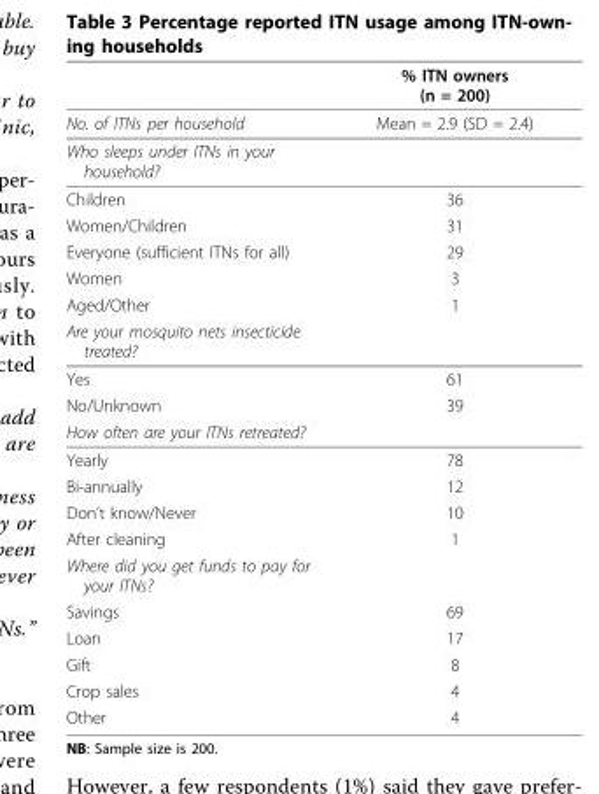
<table><thead><tr><td></td><td>% ITN owners (n = 200)</td></tr></thead><tbody><tr><td>No. of ITNs per household</td><td>Mean = 2.9 (SD = 2.4)</td></tr><tr><td colspan="2">Who sleeps under ITNs in your household?</td></tr><tr><td>Children</td><td>36</td></tr><tr><td>Women/Children</td><td>31</td></tr><tr><td>Everyone (sufficient ITNs for all)</td><td>29</td></tr><tr><td>Women</td><td>3</td></tr><tr><td>Aged/Other</td><td>1</td></tr><tr><td colspan="2">Are your mosquito nets insecticide treated?</td></tr><tr><td>Yes</td><td>61</td></tr><tr><td>No/Unknown</td><td>39</td></tr><tr><td colspan="2">How often are your ITNs retreated?</td></tr><tr><td>Yearly</td><td>78</td></tr><tr><td>Bi-annually</td><td>12</td></tr><tr><td>Don’t know/Never</td><td>10</td></tr><tr><td>After cleaning</td><td>1</td></tr><tr><td colspan="2">Where did you get funds to pay for your ITNs?</td></tr><tr><td>Savings</td><td>69</td></tr><tr><td>Loan</td><td>17</td></tr><tr><td>Gift</td><td>8</td></tr><tr><td>Crop sales</td><td>4</td></tr><tr><td>Other</td><td>4</td></tr></tbody></table>